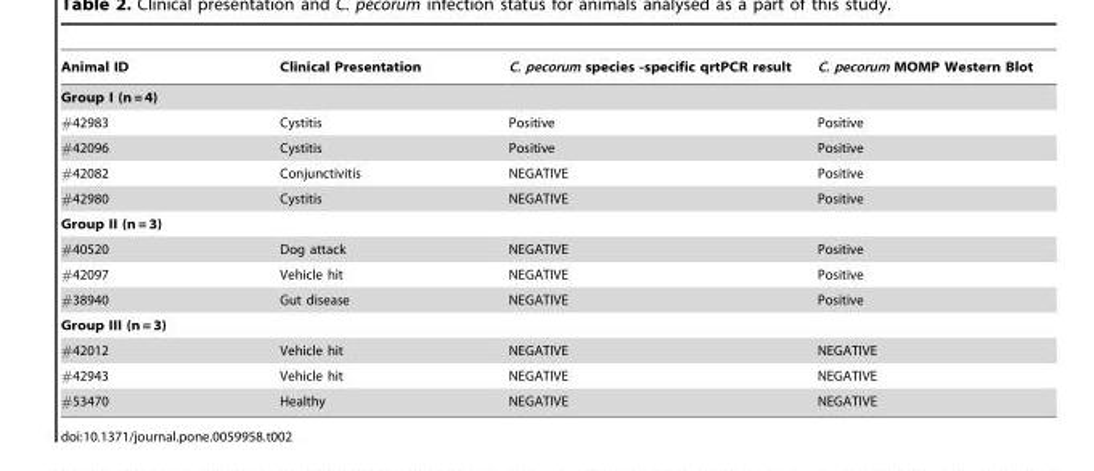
<table><thead><tr><td>Animal ID</td><td>Clinical Presentation</td><td>C. pecorum species -specific qrtPCR result</td><td>C. pecorum MOMP Western Blot</td></tr></thead><tbody><tr><td colspan="4">Group I (n = 4)</td></tr><tr><td>#42983</td><td>Cystitis</td><td>Positive</td><td>Positive</td></tr><tr><td>#42096</td><td>Cystitis</td><td>Positive</td><td>Positive</td></tr><tr><td>#42082</td><td>Conjunctivitis</td><td>NEGATIVE</td><td>Positive</td></tr><tr><td>#42980</td><td>Cystitis</td><td>NEGATIVE</td><td>Positive</td></tr><tr><td colspan="4">Group II (n = 3)</td></tr><tr><td>#40520</td><td>Dog attack</td><td>NEGATIVE</td><td>Positive</td></tr><tr><td>#42097</td><td>Vehicle hit</td><td>NEGATIVE</td><td>Positive</td></tr><tr><td>#38940</td><td>Gut disease</td><td>NEGATIVE</td><td>Positive</td></tr><tr><td colspan="4">Group III (n = 3)</td></tr><tr><td>#42012</td><td>Vehicle hit</td><td>NEGATIVE</td><td>NEGATIVE</td></tr><tr><td>#42943</td><td>Vehicle hit</td><td>NEGATIVE</td><td>NEGATIVE</td></tr><tr><td>#53470</td><td>Healthy</td><td>NEGATIVE</td><td>NEGATIVE</td></tr></tbody></table>